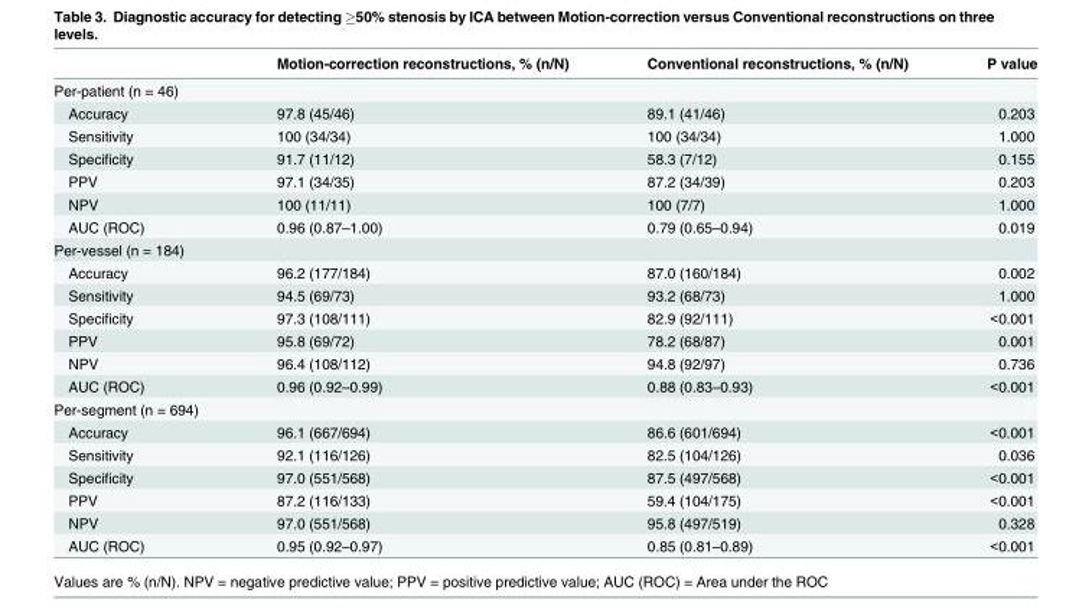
<table><thead><tr><td></td><td>Motion-correction reconstructions, % (n/N)</td><td>Conventional reconstructions, % (n/N)</td><td>P value</td></tr></thead><tbody><tr><td colspan="4">Per-patient (n = 46)</td></tr><tr><td>Accuracy</td><td>97.8 (45/46)</td><td>89.1 (41/46)</td><td>0.203</td></tr><tr><td>Sensitivity</td><td>100 (34/34)</td><td>100 (34/34)</td><td>1.000</td></tr><tr><td>Specificity</td><td>91.7 (11/12)</td><td>58.3 (7/12)</td><td>0.155</td></tr><tr><td>PPV</td><td>97.1 (34/35)</td><td>87.2 (34/39)</td><td>0.203</td></tr><tr><td>NPV</td><td>100 (11/11)</td><td>100 (7/7)</td><td>1.000</td></tr><tr><td>AUC (ROC)</td><td>0.96 (0.87–1.00)</td><td>0.79 (0.65–0.94)</td><td>0.019</td></tr><tr><td colspan="4">Per-vessel (n = 184)</td></tr><tr><td>Accuracy</td><td>96.2 (177/184)</td><td>87.0 (160/184)</td><td>0.002</td></tr><tr><td>Sensitivity</td><td>94.5 (69/73)</td><td>93.2 (68/73)</td><td>1.000</td></tr><tr><td>Specificity</td><td>97.3 (108/111)</td><td>82.9 (92/111)</td><td>&lt;0.001</td></tr><tr><td>PPV</td><td>95.8 (69/72)</td><td>78.2 (68/87)</td><td>0.001</td></tr><tr><td>NPV</td><td>96.4 (108/112)</td><td>94.8 (92/97)</td><td>0.736</td></tr><tr><td>AUC (ROC)</td><td>0.96 (0.92–0.99)</td><td>0.88 (0.83–0.93)</td><td>&lt;0.001</td></tr><tr><td colspan="4">Per-segment (n = 694)</td></tr><tr><td>Accuracy</td><td>96.1 (667/694)</td><td>86.6 (601/694)</td><td>&lt;0.001</td></tr><tr><td>Sensitivity</td><td>92.1 (116/126)</td><td>82.5 (104/126)</td><td>0.036</td></tr><tr><td>Specificity</td><td>97.0 (551/568)</td><td>87.5 (497/568)</td><td>&lt;0.001</td></tr><tr><td>PPV</td><td>87.2 (116/133)</td><td>59.4 (104/175)</td><td>&lt;0.001</td></tr><tr><td>NPV</td><td>97.0 (551/568)</td><td>95.8 (497/519)</td><td>0.328</td></tr><tr><td>AUC (ROC)</td><td>0.95 (0.92–0.97)</td><td>0.85 (0.81–0.89)</td><td>&lt;0.001</td></tr></tbody></table>